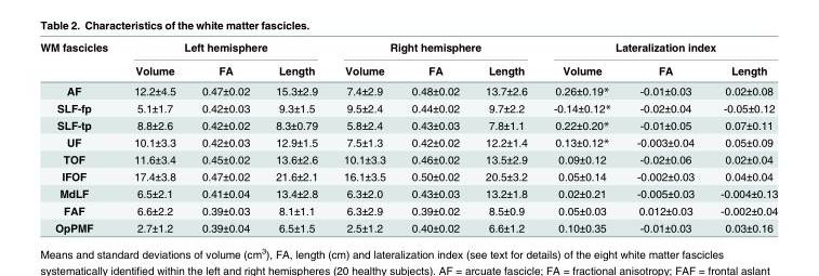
<table><thead><tr><td rowspan="2">WM fascicles</td><td colspan="3">Left hemisphere</td><td colspan="3">Right hemisphere</td><td colspan="3">Lateralization index</td></tr><tr><td>Volume</td><td>FA</td><td>Length</td><td>Volume</td><td>FA</td><td>Length</td><td>Volume</td><td>FA</td><td>Length</td></tr></thead><tbody><tr><td>AF</td><td>12.2±4.5</td><td>0.47±0.02</td><td>15.3±2.9</td><td>7.4±2.9</td><td>0.48±0.02</td><td>13.7±2.6</td><td>0.26±0.19*</td><td>-0.01±0.03</td><td>0.02±0.08</td></tr><tr><td>SLF-fp</td><td>5.1±1.7</td><td>0.42±0.03</td><td>9.3±1.5</td><td>9.5±2.4</td><td>0.44±0.02</td><td>9.7±2.2</td><td>-0.14±0.12*</td><td>-0.02±0.04</td><td>-0.05±0.12</td></tr><tr><td>SLF-tp</td><td>8.8±2.6</td><td>0.42±0.02</td><td>8.3±0.79</td><td>5.8±2.4</td><td>0.43±0.03</td><td>7.8±1.1</td><td>0.22±0.20*</td><td>-0.01±0.05</td><td>0.07±0.11</td></tr><tr><td>UF</td><td>10.1±3.3</td><td>0.42±0.03</td><td>12.9±1.5</td><td>7.5±1.3</td><td>0.42±0.02</td><td>12.2±1.4</td><td>0.13±0.12*</td><td>-0.003±0.04</td><td>0.05±0.09</td></tr><tr><td>TOF</td><td>11.6±3.4</td><td>0.45±0.02</td><td>13.6±2.6</td><td>10.1±3.3</td><td>0.46±0.02</td><td>13.5±2.9</td><td>0.09±0.12</td><td>-0.02±0.06</td><td>0.02±0.04</td></tr><tr><td>IFOF</td><td>17.4±3.8</td><td>0.47±0.02</td><td>21.6±2.1</td><td>16.1±3.5</td><td>0.50±0.02</td><td>20.5±3.2</td><td>0.05±0.14</td><td>-0.002±0.03</td><td>0.04±0.04</td></tr><tr><td>MdLF</td><td>6.5±2.1</td><td>0.41±0.04</td><td>13.4±2.8</td><td>6.3±2.0</td><td>0.43±0.03</td><td>13.2±1.8</td><td>0.02±0.21</td><td>-0.005±0.03</td><td>-0.004±0.13</td></tr><tr><td>FAF</td><td>6.6±2.2</td><td>0.39±0.03</td><td>8.1±1.1</td><td>6.3±2.9</td><td>0.39±0.02</td><td>8.5±0.9</td><td>0.05±0.03</td><td>0.012±0.03</td><td>-0.002±0.04</td></tr><tr><td>OpPMF</td><td>2.7±1.2</td><td>0.39±0.04</td><td>6.5±1.5</td><td>2.5±1.2</td><td>0.40±0.02</td><td>6.6±1.2</td><td>0.10±0.35</td><td>-0.01±0.03</td><td>0.03±0.16</td></tr></tbody></table>